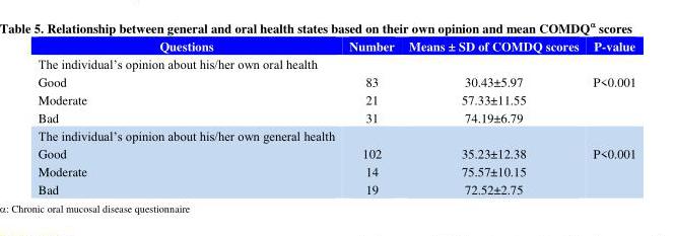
<table><thead><tr><td>Questions</td><td>Number</td><td>Means ± SD of COMDQ scores</td><td>P-value</td></tr></thead><tbody><tr><td colspan="4">The individual’s opinion about his/her own oral health</td></tr><tr><td>Good Moderate Bad</td><td>83 21 31</td><td>30.43±5.97 57.33±11.55 74.19±6.79</td><td>P&lt;0.001</td></tr><tr><td colspan="4">The individual’s opinion about his/her own general health</td></tr><tr><td>Good Moderate Bad</td><td>102 14 19</td><td>35.23±12.38 75.57±10.15 72.52±2.75</td><td>P&lt;0.001</td></tr></tbody></table>